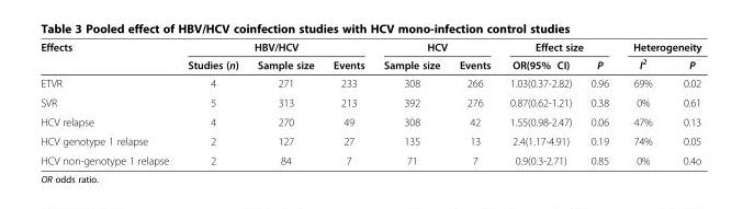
<table><thead><tr><td rowspan="2">Effects</td><td colspan="3">HBV/HCV</td><td colspan="2">HCV</td><td colspan="2">Effect size</td><td colspan="2">Heterogeneity</td></tr><tr><td>Studies (n)</td><td>Sample size</td><td>Events</td><td>Sample size</td><td>Events</td><td>OR(95% CI)</td><td>P</td><td>I<sup>2</sup></td><td>P</td></tr></thead><tbody><tr><td>ETVR</td><td>4</td><td>271</td><td>233</td><td>308</td><td>266</td><td>1.03(0.37-2.82)</td><td>0.96</td><td>69%</td><td>0.02</td></tr><tr><td>SVR</td><td>5</td><td>313</td><td>213</td><td>392</td><td>276</td><td>0.87(0.62-1.21)</td><td>0.38</td><td>0%</td><td>0.61</td></tr><tr><td>HCV relapse</td><td>4</td><td>270</td><td>49</td><td>308</td><td>42</td><td>1.55(0.98-2.47)</td><td>0.06</td><td>47%</td><td>0.13</td></tr><tr><td>HCV genotype 1 relapse</td><td>2</td><td>127</td><td>27</td><td>135</td><td>13</td><td>2.4(1.17-4.91)</td><td>0.19</td><td>74%</td><td>0.05</td></tr><tr><td>HCV non-genotype 1 relapse</td><td>2</td><td>84</td><td>7</td><td>71</td><td>7</td><td>0.9(0.3-2.71)</td><td>0.85</td><td>0%</td><td>0.4o</td></tr></tbody></table>